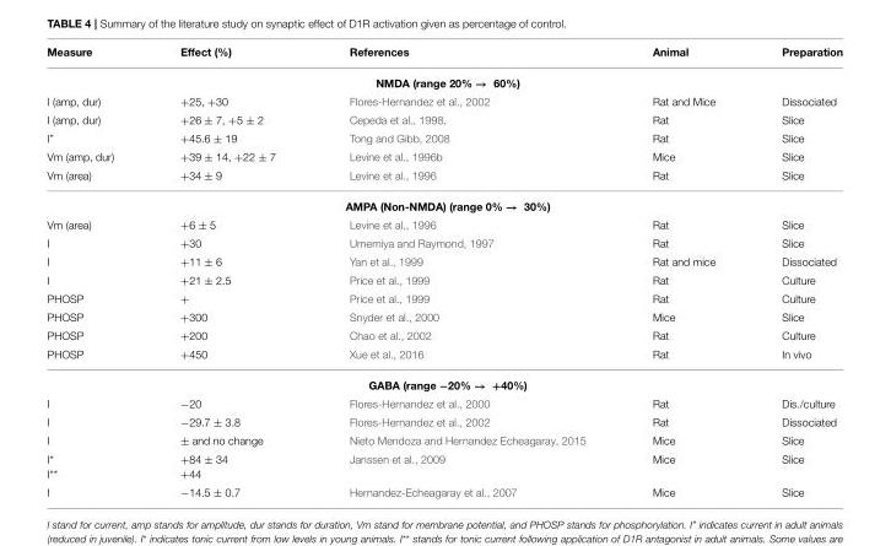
<table><thead><tr><td>Measure</td><td>Effect (%)</td><td>References</td><td>Animal</td><td>Preparation</td></tr></thead><tbody><tr><td></td><td colspan="3">NMDA (range 20% → 60%)</td><td></td></tr><tr><td>I (amp, dur)</td><td>+25, +30</td><td>Flores-Hernandez et al., 2002</td><td>Rat and Mice</td><td>Dissociated</td></tr><tr><td>I (amp, dur)</td><td>+26 ± 7, +5 ± 2</td><td>Cepeda et al., 1998.</td><td>Rat</td><td>Slice</td></tr><tr><td>I”</td><td>+45.6 ± 19</td><td>Tong and Gibb, 2008</td><td>Rat</td><td>Slice</td></tr><tr><td>Vm (amp, dur)</td><td>+39 ± 14, +22 ± 7</td><td>Levine et al., 1996b</td><td>Mice</td><td>Slice</td></tr><tr><td rowspan="2">Vm (area)</td><td>+34 ± 9</td><td>Levine et al., 1996</td><td>Rat</td><td>Slice</td></tr><tr><td colspan="3">AMPA (Non-NMDA) (range 0% → 30%)</td><td></td></tr><tr><td>Vm (area)</td><td>+6 ± 5</td><td>Levine et al., 1996</td><td>Rat</td><td>Slice</td></tr><tr><td>I</td><td>+30</td><td>Umemiya and Raymond, 1997</td><td>Rat</td><td>Slice</td></tr><tr><td>I</td><td>+11 ± 6</td><td>Yan et al., 1999</td><td>Rat and mice</td><td>Dissociated</td></tr><tr><td>I</td><td>+21 ± 2.5</td><td>Price et al., 1999</td><td>Rat</td><td>Culture</td></tr><tr><td>PHOSP</td><td>+</td><td>Price et al., 1999</td><td>Rat</td><td>Culture</td></tr><tr><td>PHOSP</td><td>+300</td><td>Snyder et al., 2000</td><td>Mice</td><td>Slice</td></tr><tr><td>PHOSP</td><td>+200</td><td>Chao et al., 2002</td><td>Rat</td><td>Culture</td></tr><tr><td rowspan="2">PHOSP</td><td>+450</td><td>Xue et al., 2016</td><td>Rat</td><td>In vivo</td></tr><tr><td colspan="3">GABA (range −20% → +40%)</td><td></td></tr><tr><td>I</td><td>−20</td><td>Flores-Hernandez et al., 2000</td><td>Rat</td><td>Dis./culture</td></tr><tr><td>I</td><td>−29.7 ± 3.8</td><td>Flores-Hernandez et al., 2002</td><td>Rat</td><td>Dissociated</td></tr><tr><td>I</td><td>± and no change</td><td>Nieto Mendoza and Hernandez Echeagaray, 2015</td><td>Mice</td><td>Slice</td></tr><tr><td>I* I**</td><td>+84 ± 34 +44</td><td>Janssen et al., 2009</td><td>Mice</td><td>Slice</td></tr><tr><td>I</td><td>−14.5 ± 0.7</td><td>Hernandez-Echeagaray et al., 2007</td><td>Mice</td><td>Slice</td></tr></tbody></table>